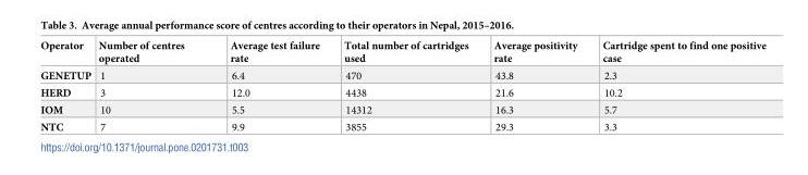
<table><thead><tr><td>Operator</td><td>Number of centres operated</td><td>Average test failure rate</td><td>Total number of cartridges used</td><td>Average positivity rate</td><td>Cartridge spent to find one positive case</td></tr></thead><tbody><tr><td>GENETUP</td><td>1</td><td>6.4</td><td>470</td><td>43.8</td><td>2.3</td></tr><tr><td>HERD</td><td>3</td><td>12.0</td><td>4438</td><td>21.6</td><td>10.2</td></tr><tr><td>IOM</td><td>10</td><td>5.5</td><td>14312</td><td>16.3</td><td>5.7</td></tr><tr><td>NTC</td><td>7</td><td>9.9</td><td>3855</td><td>29.3</td><td>3.3</td></tr></tbody></table>